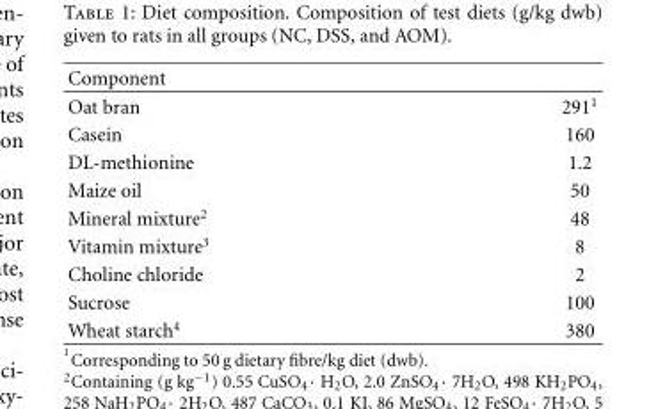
<table><thead><tr><td>Component</td><td></td></tr></thead><tbody><tr><td>Oat bran</td><td>291<sup>1</sup></td></tr><tr><td>Casein</td><td>160</td></tr><tr><td>DL-methionine</td><td>1.2</td></tr><tr><td>Maize oil</td><td>50</td></tr><tr><td>Mineral mixture<sup>2</sup></td><td>48</td></tr><tr><td>Vitamin mixture<sup>3</sup></td><td>8</td></tr><tr><td>Choline chloride</td><td>2</td></tr><tr><td>Sucrose</td><td>100</td></tr><tr><td>Wheat starch<sup>4</sup></td><td>380</td></tr></tbody></table>